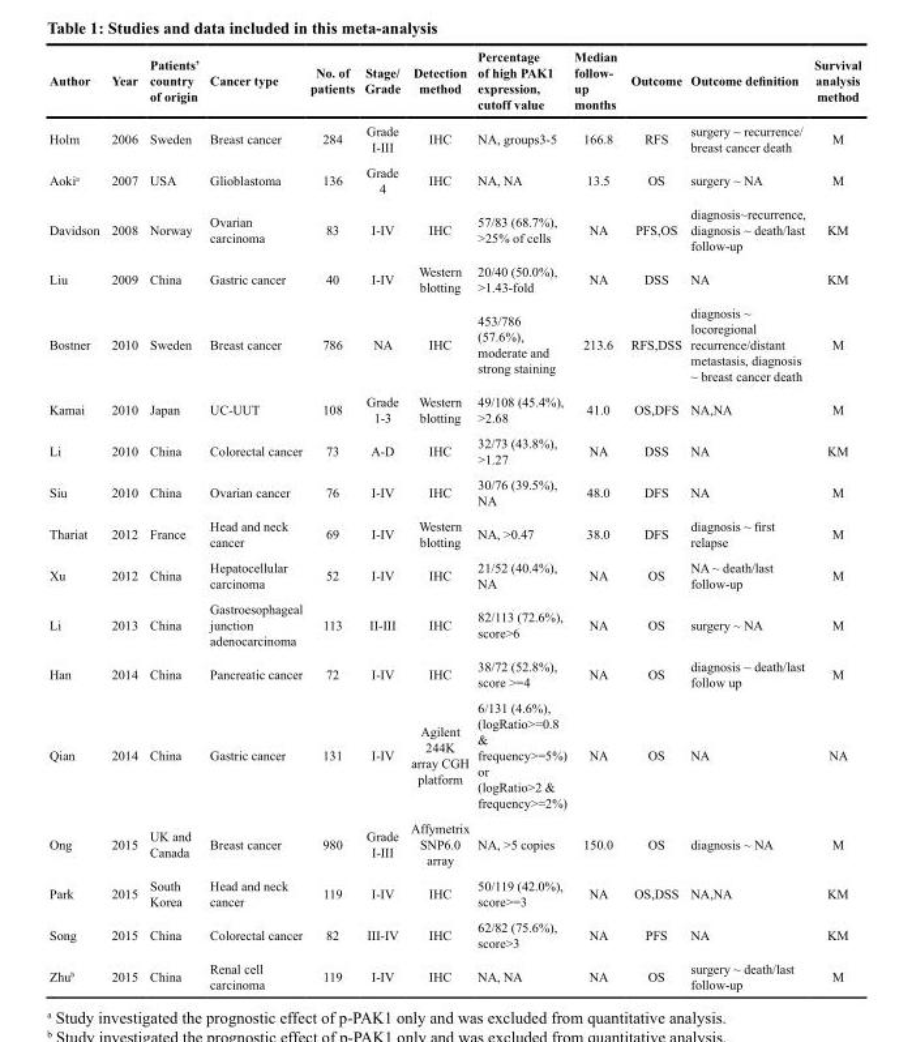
<table><thead><tr><td>Author</td><td>Year</td><td>Patients’ country of origin</td><td>Cancer type</td><td>No. of patients</td><td>Stage/ Grade</td><td>Detection method</td><td>Percentage of high PAK1 expression, cutoff value</td><td>Median follow- up months</td><td>Outcome</td><td>Outcome definition</td><td>Survival analysis method</td></tr></thead><tbody><tr><td>Holm</td><td>2006</td><td>Sweden</td><td>Breast cancer</td><td>284</td><td>Grade I-III</td><td>IHC</td><td>NA, groups3-5</td><td>166.8</td><td>RFS</td><td>surgery ~ recurrence/ breast cancer death</td><td>M</td></tr><tr><td>Aoki<sup>a</sup></td><td>2007</td><td>USA</td><td>Glioblastoma</td><td>136</td><td>Grade 4</td><td>IHC</td><td>NA, NA</td><td>13.5</td><td>OS</td><td>surgery ~ NA</td><td>M</td></tr><tr><td>Davidson</td><td>2008</td><td>Norway</td><td>Ovarian carcinoma</td><td>83</td><td>I-IV</td><td>IHC</td><td>57/83 (68.7%), &gt;25% of cells</td><td>NA</td><td>PFS,OS</td><td>diagnosis~recurrence, diagnosis ~ death/last follow-up</td><td>KM</td></tr><tr><td>Liu</td><td>2009</td><td>China</td><td>Gastric cancer</td><td>40</td><td>I-IV</td><td>Western blotting</td><td>20/40 (50.0%), &gt;1.43-fold</td><td>NA</td><td>DSS</td><td>NA</td><td>KM</td></tr><tr><td>Bostner</td><td>2010</td><td>Sweden</td><td>Breast cancer</td><td>786</td><td>NA</td><td>IHC</td><td>453/786 (57.6%), moderate and strong staining</td><td>213.6</td><td>RFS,DSS</td><td>diagnosis ~ locoregional recurrence/distant metastasis, diagnosis ~ breast cancer death</td><td>M</td></tr><tr><td>Kamai</td><td>2010</td><td>Japan</td><td>UC-UUT</td><td>108</td><td>Grade 1-3</td><td>Western blotting</td><td>49/108 (45.4%), &gt;2.68</td><td>41.0</td><td>OS,DFS</td><td>NA,NA</td><td>M</td></tr><tr><td>Li</td><td>2010</td><td>China</td><td>Colorectal cancer</td><td>73</td><td>A-D</td><td>IHC</td><td>32/73 (43.8%), &gt;1.27</td><td>NA</td><td>DSS</td><td>NA</td><td>KM</td></tr><tr><td>Siu</td><td>2010</td><td>China</td><td>Ovarian cancer</td><td>76</td><td>I-IV</td><td>IHC</td><td>30/76 (39.5%), NA</td><td>48.0</td><td>DFS</td><td>NA</td><td>M</td></tr><tr><td>Thariat</td><td>2012</td><td>France</td><td>Head and neck cancer</td><td>69</td><td>I-IV</td><td>Western blotting</td><td>NA, &gt;0.47</td><td>38.0</td><td>DFS</td><td>diagnosis ~ first relapse</td><td>M</td></tr><tr><td>Xu</td><td>2012</td><td>China</td><td>Hepatocellular carcinoma</td><td>52</td><td>I-IV</td><td>IHC</td><td>21/52 (40.4%), NA</td><td>NA</td><td>OS</td><td>NA ~ death/last follow-up</td><td>M</td></tr><tr><td>Li</td><td>2013</td><td>China</td><td>Gastroesophageal junction adenocarcinoma</td><td>113</td><td>II-III</td><td>IHC</td><td>82/113 (72.6%), score&gt;6</td><td>NA</td><td>OS</td><td>surgery ~ NA</td><td>M</td></tr><tr><td>Han</td><td>2014</td><td>China</td><td>Pancreatic cancer</td><td>72</td><td>I-IV</td><td>IHC</td><td>38/72 (52.8%), score &gt;=4</td><td>NA</td><td>OS</td><td>diagnosis ~ death/last follow up</td><td>M</td></tr><tr><td>Qian</td><td>2014</td><td>China</td><td>Gastric cancer</td><td>131</td><td>I-IV</td><td>Agilent 244K array CGH platform</td><td>6/131 (4.6%), (logRatio&gt;=0.8 &amp; frequency&gt;=5%) or (logRatio&gt;2 &amp; frequency&gt;=2%)</td><td>NA</td><td>OS</td><td>NA</td><td>NA</td></tr><tr><td>Ong</td><td>2015</td><td>UK and Canada</td><td>Breast cancer</td><td>980</td><td>Grade I-III</td><td>Affymetrix SNP6.0 array</td><td>NA, &gt;5 copies</td><td>150.0</td><td>OS</td><td>diagnosis ~ NA</td><td>M</td></tr><tr><td>Park</td><td>2015</td><td>South Korea</td><td>Head and neck cancer</td><td>119</td><td>I-IV</td><td>IHC</td><td>50/119 (42.0%), score&gt;=3</td><td>NA</td><td>OS,DSS</td><td>NA,NA</td><td>KM</td></tr><tr><td>Song</td><td>2015</td><td>China</td><td>Colorectal cancer</td><td>82</td><td>III-IV</td><td>IHC</td><td>62/82 (75.6%), score&gt;3</td><td>NA</td><td>PFS</td><td>NA</td><td>KM</td></tr><tr><td>Zhu<sup>b</sup></td><td>2015</td><td>China</td><td>Renal cell carcinoma</td><td>119</td><td>I-IV</td><td>IHC</td><td>NA, NA</td><td>NA</td><td>OS</td><td>surgery ~ death/last follow-up</td><td>M</td></tr></tbody></table>